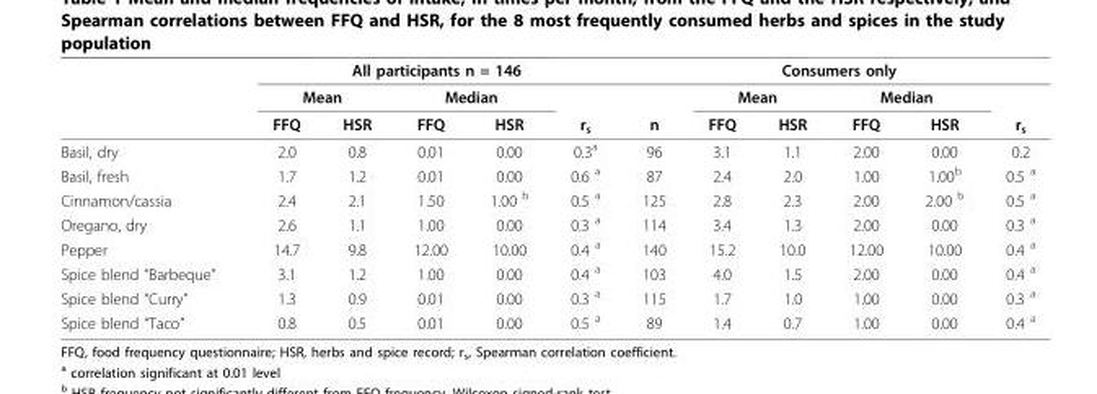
<table><thead><tr><td rowspan="3"></td><td colspan="5">All participants n = 146</td><td colspan="6">Consumers only</td></tr><tr><td colspan="2">Mean</td><td colspan="2">Median</td><td rowspan="2">r<sub>s</sub></td><td rowspan="2">n</td><td colspan="2">Mean</td><td colspan="2">Median</td><td rowspan="2">r<sub>s</sub></td></tr><tr><td>FFQ</td><td>HSR</td><td>FFQ</td><td>HSR</td><td>FFQ</td><td>HSR</td><td>FFQ</td><td>HSR</td></tr></thead><tbody><tr><td>Basil, dry</td><td>2.0</td><td>0.8</td><td>0.01</td><td>0.00</td><td>0.3<sup>a</sup></td><td>96</td><td>3.1</td><td>1.1</td><td>2.00</td><td>0.00</td><td>0.2</td></tr><tr><td>Basil, fresh</td><td>1.7</td><td>1.2</td><td>0.01</td><td>0.00</td><td>0.6 <sup>a</sup></td><td>87</td><td>2.4</td><td>2.0</td><td>1.00</td><td>1.00<sup>b</sup></td><td>0.5 <sup>a</sup></td></tr><tr><td>Cinnamon/cassia</td><td>2.4</td><td>2.1</td><td>1.50</td><td>1.00 <sup>b</sup></td><td>0.5 <sup>a</sup></td><td>125</td><td>2.8</td><td>2.3</td><td>2.00</td><td>2.00 <sup>b</sup></td><td>0.5 <sup>a</sup></td></tr><tr><td>Oregano, dry</td><td>2.6</td><td>1.1</td><td>1.00</td><td>0.00</td><td>0.3 <sup>a</sup></td><td>114</td><td>3.4</td><td>1.3</td><td>2.00</td><td>0.00</td><td>0.3 <sup>a</sup></td></tr><tr><td>Pepper</td><td>14.7</td><td>9.8</td><td>12.00</td><td>10.00</td><td>0.4 <sup>a</sup></td><td>140</td><td>15.2</td><td>10.0</td><td>12.00</td><td>10.00</td><td>0.4 <sup>a</sup></td></tr><tr><td>Spice blend “Barbeque”</td><td>3.1</td><td>1.2</td><td>1.00</td><td>0.00</td><td>0.4 <sup>a</sup></td><td>103</td><td>4.0</td><td>1.5</td><td>2.00</td><td>0.00</td><td>0.4 <sup>a</sup></td></tr><tr><td>Spice blend “Curry”</td><td>1.3</td><td>0.9</td><td>0.01</td><td>0.00</td><td>0.3 <sup>a</sup></td><td>115</td><td>1.7</td><td>1.0</td><td>1.00</td><td>0.00</td><td>0.3 <sup>a</sup></td></tr><tr><td>Spice blend “Taco”</td><td>0.8</td><td>0.5</td><td>0.01</td><td>0.00</td><td>0.5 <sup>a</sup></td><td>89</td><td>1.4</td><td>0.7</td><td>1.00</td><td>0.00</td><td>0.4 <sup>a</sup></td></tr></tbody></table>